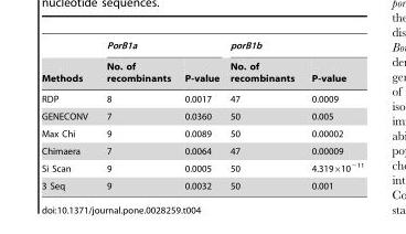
<table><thead><tr><td rowspan="2">Methods</td><td colspan="2">PorB1a</td><td colspan="2">porB1b</td></tr><tr><td>No. of recombinants</td><td>P-value</td><td>No. of recombinants</td><td>P-value</td></tr></thead><tbody><tr><td>RDP</td><td>8</td><td>0.0017</td><td>47</td><td>0.0009</td></tr><tr><td>GENECONV</td><td>7</td><td>0.0360</td><td>50</td><td>0.005</td></tr><tr><td>Max Chi</td><td>9</td><td>0.0089</td><td>50</td><td>0.00002</td></tr><tr><td>Chimaera</td><td>7</td><td>0.0064</td><td>47</td><td>0.00009</td></tr><tr><td>Si Scan</td><td>9</td><td>0.0005</td><td>50</td><td>4.319×10<sup>−11</sup></td></tr><tr><td>3 Seq</td><td>9</td><td>0.0032</td><td>50</td><td>0.001</td></tr></tbody></table>